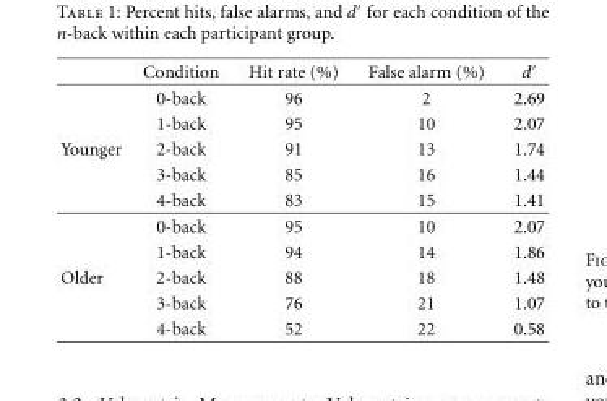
<table><thead><tr><td></td><td>Condition</td><td>Hit rate (%)</td><td>False alarm (%)</td><td>d′</td></tr></thead><tbody><tr><td></td><td>0-back</td><td>96</td><td>2</td><td>2.69</td></tr><tr><td></td><td>1-back</td><td>95</td><td>10</td><td>2.07</td></tr><tr><td rowspan="5">Younger</td><td>2-back</td><td>91</td><td>13</td><td>1.74</td></tr><tr><td>3-back</td><td>85</td><td>16</td><td>1.44</td></tr><tr><td>4-back</td><td>83</td><td>15</td><td>1.41</td></tr><tr><td>0-back</td><td>95</td><td>10</td><td>2.07</td></tr><tr><td>1-back</td><td>94</td><td>14</td><td>1.86</td></tr><tr><td rowspan="3">Older</td><td>2-back</td><td>88</td><td>18</td><td>1.48</td></tr><tr><td>3-back</td><td>76</td><td>21</td><td>1.07</td></tr><tr><td>4-back</td><td>52</td><td>22</td><td>0.58</td></tr></tbody></table>